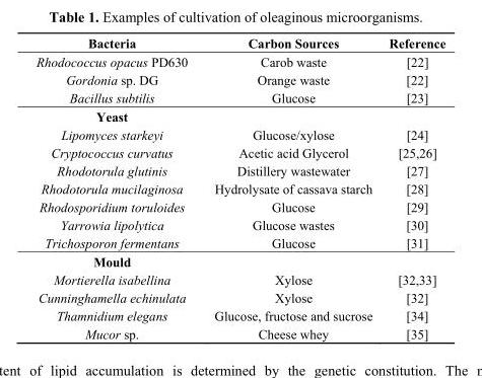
<table><thead><tr><td>Bacteria</td><td>Carbon Sources</td><td>Reference</td></tr></thead><tbody><tr><td>Rhodococcus opacus PD630</td><td>Carob waste</td><td>[22]</td></tr><tr><td>Gordonia sp. DG</td><td>Orange waste</td><td>[22]</td></tr><tr><td>Bacillus subtilis</td><td>Glucose</td><td>[23]</td></tr><tr><td colspan="3">Yeast</td></tr><tr><td>Lipomyces starkeyi</td><td>Glucose/xylose</td><td>[24]</td></tr><tr><td>Cryptococcus curvatus</td><td>Acetic acid Glycerol</td><td>[25,26]</td></tr><tr><td>Rhodotorula glutinis</td><td>Distillery wastewater</td><td>[27]</td></tr><tr><td>Rhodotorula mucilaginosa</td><td>Hydrolysate of cassava starch</td><td>[28]</td></tr><tr><td>Rhodosporidium toruloides</td><td>Glucose</td><td>[29]</td></tr><tr><td>Yarrowia lipolytica</td><td>Glucose wastes</td><td>[30]</td></tr><tr><td>Trichosporon fermentans</td><td>Glucose</td><td>[31]</td></tr><tr><td colspan="3">Mould</td></tr><tr><td>Mortierella isabellina</td><td>Xylose</td><td>[32,33]</td></tr><tr><td>Cunninghamella echinulata</td><td>Xylose</td><td>[32]</td></tr><tr><td>Thamnidium elegans</td><td>Glucose, fructose and sucrose</td><td>[34]</td></tr><tr><td>Mucor sp.</td><td>Cheese whey</td><td>[35]</td></tr></tbody></table>